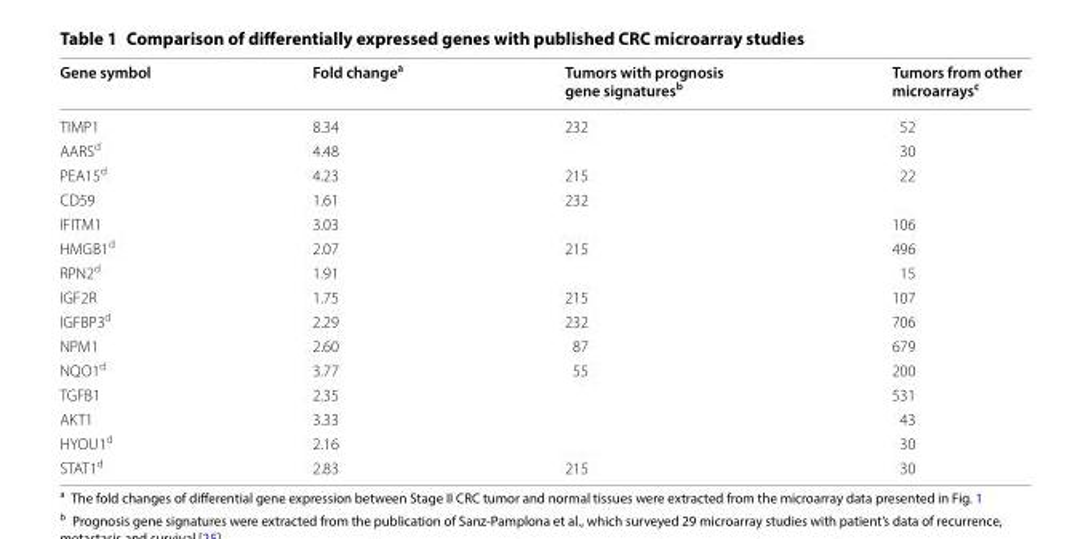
<table><thead><tr><td>Gene symbol</td><td>Fold change<sup>a</sup></td><td>Tumors with prognosis gene signatures<sup>b</sup></td><td>Tumors from other microarrays<sup>c</sup></td></tr></thead><tbody><tr><td>TIMP1</td><td>8.34</td><td>232</td><td>52</td></tr><tr><td>AARS<sup>d</sup></td><td>4.48</td><td></td><td>30</td></tr><tr><td>PEA15<sup>d</sup></td><td>4.23</td><td>215</td><td>22</td></tr><tr><td>CD59</td><td>1.61</td><td>232</td><td></td></tr><tr><td>IFITM1</td><td>3.03</td><td></td><td>106</td></tr><tr><td>HMGB1<sup>d</sup></td><td>2.07</td><td>215</td><td>496</td></tr><tr><td>RPN2<sup>d</sup></td><td>1.91</td><td></td><td>15</td></tr><tr><td>IGF2R</td><td>1.75</td><td>215</td><td>107</td></tr><tr><td>IGFBP3<sup>d</sup></td><td>2.29</td><td>232</td><td>706</td></tr><tr><td>NPM1</td><td>2.60</td><td>87</td><td>679</td></tr><tr><td>NQO1<sup>d</sup></td><td>3.77</td><td>55</td><td>200</td></tr><tr><td>TGFB1</td><td>2.35</td><td></td><td>531</td></tr><tr><td>AKT1</td><td>3.33</td><td></td><td>43</td></tr><tr><td>HYOU1<sup>d</sup></td><td>2.16</td><td></td><td>30</td></tr><tr><td>STAT1<sup>d</sup></td><td>2.83</td><td>215</td><td>30</td></tr></tbody></table>